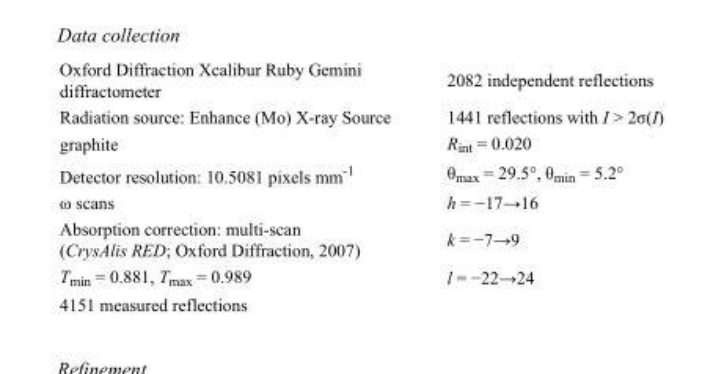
<table><tbody><tr><td>Oxford Diffraction Xcalibur Ruby Gemini diffractometer</td><td>2082 independent reflections</td></tr><tr><td>Radiation source: Enhance (Mo) X-ray Source</td><td>1441 reflections with I &gt; 2σ(I)</td></tr><tr><td>graphite</td><td>R<sub>int</sub> = 0.020</td></tr><tr><td>Detector resolution: 10.5081 pixels mm<sup>-1</sup></td><td>θ<sub>max</sub> = 29.5°, θ<sub>min</sub> = 5.2°</td></tr><tr><td>ω scans</td><td>h = −17→16</td></tr><tr><td>Absorption correction: multi-scan (CrysAlis RED; Oxford Diffraction, 2007)</td><td>k = −7→9</td></tr><tr><td>T<sub>min</sub> = 0.881, T<sub>max</sub> = 0.989</td><td>l = −22→24</td></tr><tr><td>4151 measured reflections</td><td></td></tr></tbody></table>